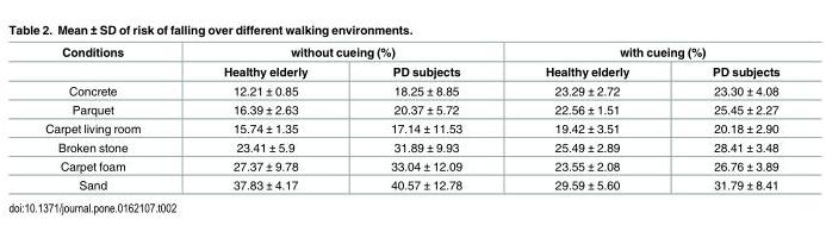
<table><thead><tr><td rowspan="2">Conditions</td><td colspan="2">without cueing (%)</td><td colspan="2">with cueing (%)</td></tr><tr><td>Healthy elderly</td><td>PD subjects</td><td>Healthy elderly</td><td>PD subjects</td></tr></thead><tbody><tr><td>Concrete</td><td>12.21 ± 0.85</td><td>18.25 ± 8.85</td><td>23.29 ± 2.72</td><td>23.30 ± 4.08</td></tr><tr><td>Parquet</td><td>16.39 ± 2.63</td><td>20.37 ± 5.72</td><td>22.56 ± 1.51</td><td>25.45 ± 2.27</td></tr><tr><td>Carpet living room</td><td>15.74 ± 1.35</td><td>17.14 ± 11.53</td><td>19.42 ± 3.51</td><td>20.18 ± 2.90</td></tr><tr><td>Broken stone</td><td>23.41 ± 5.9</td><td>31.89 ± 9.93</td><td>25.49 ± 2.89</td><td>28.41 ± 3.48</td></tr><tr><td>Carpet foam</td><td>27.37 ± 9.78</td><td>33.04 ± 12.09</td><td>23.55 ± 2.08</td><td>26.76 ± 3.89</td></tr><tr><td>Sand</td><td>37.83 ± 4.17</td><td>40.57 ± 12.78</td><td>29.59 ± 5.60</td><td>31.79 ± 8.41</td></tr></tbody></table>